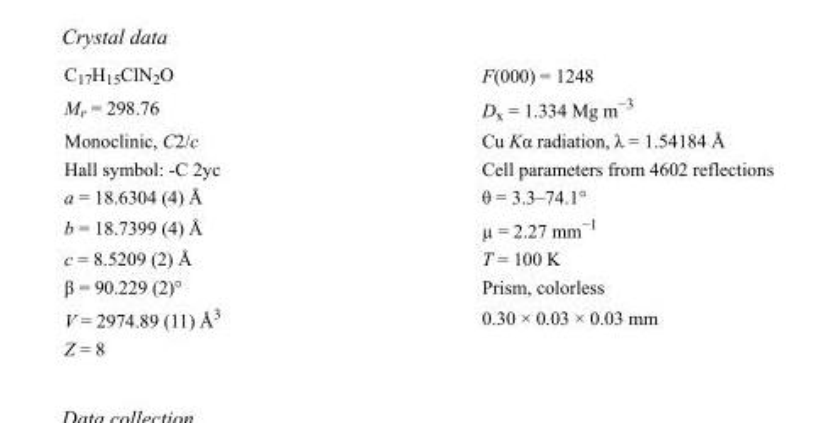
<table><tbody><tr><td>C<sub>17</sub>H<sub>15</sub>ClN<sub>2</sub>O</td><td>F(000) = 1248</td></tr><tr><td>M<sub>r</sub> = 298.76</td><td>D<sub>x</sub> = 1.334 Mg m<sup>−3</sup></td></tr><tr><td>Monoclinic, C2/c</td><td>Cu Kα radiation, λ = 1.54184 Å</td></tr><tr><td>Hall symbol: -C 2yc</td><td>Cell parameters from 4602 reflections</td></tr><tr><td>a = 18.6304 (4) Å</td><td>θ = 3.3–74.1°</td></tr><tr><td>b = 18.7399 (4) Å</td><td>µ = 2.27 mm<sup>−1</sup></td></tr><tr><td>c = 8.5209 (2) Å</td><td>T = 100 K</td></tr><tr><td>β = 90.229 (2)°</td><td>Prism, colorless</td></tr><tr><td>V = 2974.89 (11) Å<sup>3</sup></td><td>0.30 × 0.03 × 0.03 mm</td></tr><tr><td>Z = 8</td><td></td></tr></tbody></table>